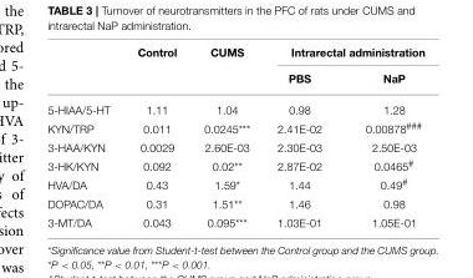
<table><thead><tr><td rowspan="2"></td><td rowspan="2">Control</td><td rowspan="2">CUMS</td><td colspan="2">Intrarectal administration</td></tr><tr><td>PBS</td><td>NaP</td></tr></thead><tbody><tr><td>5-HIAA/5-HT</td><td>1.11</td><td>1.04</td><td>0.98</td><td>1.28</td></tr><tr><td>KYN/TRP</td><td>0.011</td><td>0.0245***</td><td>2.41E-02</td><td>0.00878<sup>###</sup></td></tr><tr><td>3-HAA/KYN</td><td>0.0029</td><td>2.60E-03</td><td>2.30E-03</td><td>2.50E-03</td></tr><tr><td>3-HK/KYN</td><td>0.092</td><td>0.02**</td><td>2.87E-02</td><td>0.0465<sup>#</sup></td></tr><tr><td>HVA/DA</td><td>0.43</td><td>1.59*</td><td>1.44</td><td>0.49<sup>#</sup></td></tr><tr><td>DOPAC/DA</td><td>0.31</td><td>1.51**</td><td>1.46</td><td>0.98</td></tr><tr><td>3-MT/DA</td><td>0.043</td><td>0.095***</td><td>1.03E-01</td><td>1.05E-01</td></tr></tbody></table>